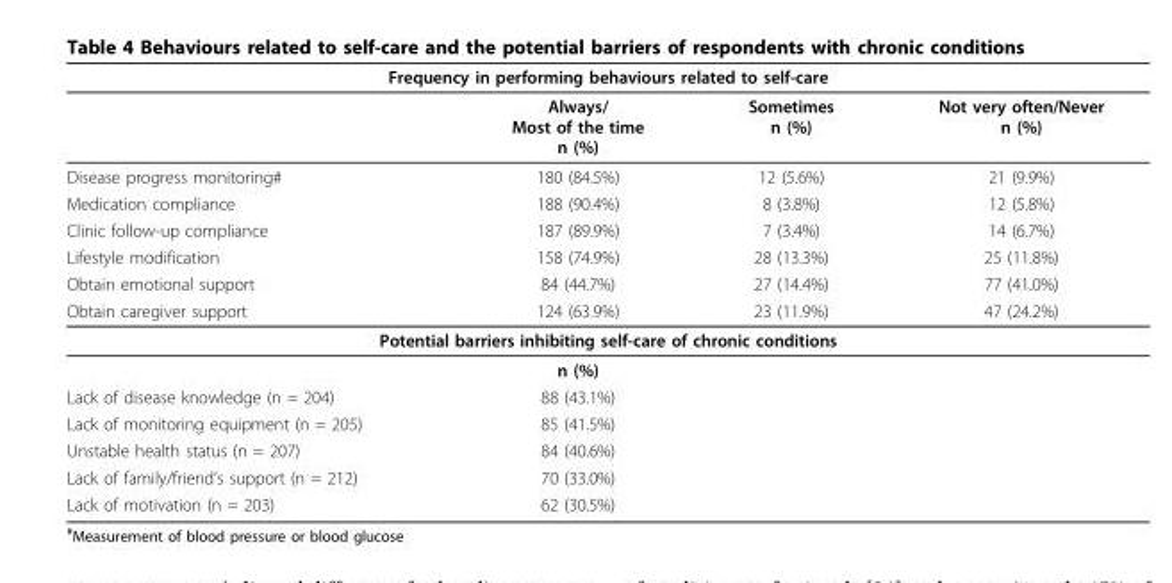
<table><thead><tr><td colspan="4">Frequency in performing behaviours related to self-care</td></tr><tr><td></td><td>Always/ Most of the time n (%)</td><td>Sometimes n (%)</td><td>Not very often/Never n (%)</td></tr></thead><tbody><tr><td>Disease progress monitoring#</td><td>180 (84.5%)</td><td>12 (5.6%)</td><td>21 (9.9%)</td></tr><tr><td>Medication compliance</td><td>188 (90.4%)</td><td>8 (3.8%)</td><td>12 (5.8%)</td></tr><tr><td>Clinic follow-up compliance</td><td>187 (89.9%)</td><td>7 (3.4%)</td><td>14 (6.7%)</td></tr><tr><td>Lifestyle modification</td><td>158 (74.9%)</td><td>28 (13.3%)</td><td>25 (11.8%)</td></tr><tr><td>Obtain emotional support</td><td>84 (44.7%)</td><td>27 (14.4%)</td><td>77 (41.0%)</td></tr><tr><td>Obtain caregiver support</td><td>124 (63.9%)</td><td>23 (11.9%)</td><td>47 (24.2%)</td></tr><tr><td colspan="4">Potential barriers inhibiting self-care of chronic conditions</td></tr><tr><td></td><td>n (%)</td><td></td><td></td></tr><tr><td>Lack of disease knowledge (n = 204)</td><td>88 (43.1%)</td><td></td><td></td></tr><tr><td>Lack of monitoring equipment (n = 205)</td><td>85 (41.5%)</td><td></td><td></td></tr><tr><td>Unstable health status (n = 207)</td><td>84 (40.6%)</td><td></td><td></td></tr><tr><td>Lack of family/friend’s support (n = 212)</td><td>70 (33.0%)</td><td></td><td></td></tr><tr><td>Lack of motivation (n = 203)</td><td>62 (30.5%)</td><td></td><td></td></tr></tbody></table>